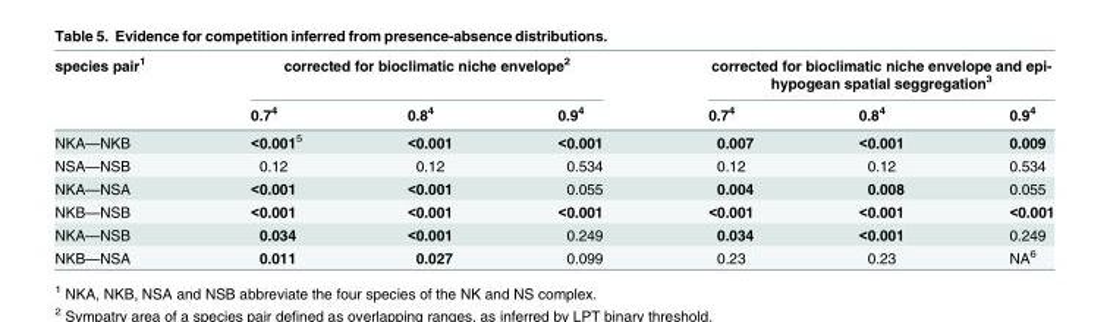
<table><thead><tr><td rowspan="2">species pair<sup>1</sup></td><td colspan="3">corrected for bioclimatic niche envelope<sup>2</sup></td><td colspan="3">corrected for bioclimatic niche envelope and epi- hypogean spatial seggregation<sup>3</sup></td></tr><tr><td>0.7<sup>4</sup></td><td>0.8<sup>4</sup></td><td>0.9<sup>4</sup></td><td>0.7<sup>4</sup></td><td>0.8<sup>4</sup></td><td>0.9<sup>4</sup></td></tr></thead><tbody><tr><td>NKA—NKB</td><td>&lt;0.001<sup>5</sup></td><td>&lt;0.001</td><td>&lt;0.001</td><td>0.007</td><td>&lt;0.001</td><td>0.009</td></tr><tr><td>NSA—NSB</td><td>0.12</td><td>0.12</td><td>0.534</td><td>0.12</td><td>0.12</td><td>0.534</td></tr><tr><td>NKA—NSA</td><td>&lt;0.001</td><td>&lt;0.001</td><td>0.055</td><td>0.004</td><td>0.008</td><td>0.055</td></tr><tr><td>NKB—NSB</td><td>&lt;0.001</td><td>&lt;0.001</td><td>&lt;0.001</td><td>&lt;0.001</td><td>&lt;0.001</td><td>&lt;0.001</td></tr><tr><td>NKA—NSB</td><td>0.034</td><td>&lt;0.001</td><td>0.249</td><td>0.034</td><td>&lt;0.001</td><td>0.249</td></tr><tr><td>NKB—NSA</td><td>0.011</td><td>0.027</td><td>0.099</td><td>0.23</td><td>0.23</td><td>NA<sup>6</sup></td></tr></tbody></table>